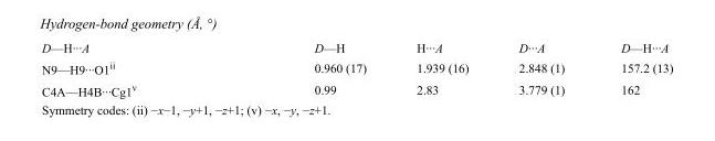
<table><tbody><tr><td>D—H···A</td><td>D—H</td><td>H···A</td><td>D···A</td><td>D—H···A</td></tr><tr><td>N9—H9···O1<sup>ii</sup></td><td>0.960 (17)</td><td>1.939 (16)</td><td>2.848 (1)</td><td>157.2 (13)</td></tr><tr><td>C4A—H4B···Cg1<sup>v</sup></td><td>0.99</td><td>2.83</td><td>3.779 (1)</td><td>162</td></tr></tbody></table>